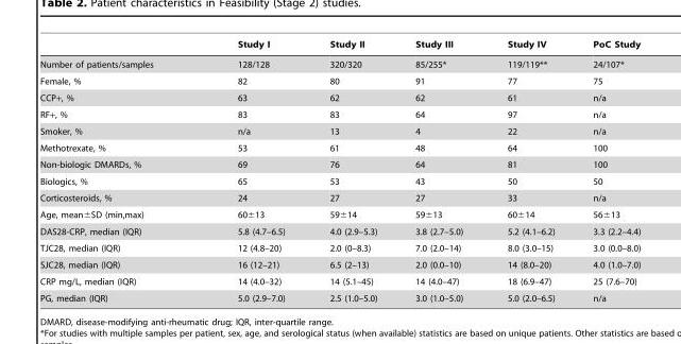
<table><thead><tr><td></td><td>Study I</td><td>Study II</td><td>Study III</td><td>Study IV</td><td>PoC Study</td></tr></thead><tbody><tr><td>Number of patients/samples</td><td>128/128</td><td>320/320</td><td>85/255*</td><td>119/119**</td><td>24/107*</td></tr><tr><td>Female, %</td><td>82</td><td>80</td><td>91</td><td>77</td><td>75</td></tr><tr><td>CCP+, %</td><td>63</td><td>62</td><td>62</td><td>61</td><td>n/a</td></tr><tr><td>RF+, %</td><td>83</td><td>83</td><td>64</td><td>97</td><td>n/a</td></tr><tr><td>Smoker, %</td><td>n/a</td><td>13</td><td>4</td><td>22</td><td>n/a</td></tr><tr><td>Methotrexate, %</td><td>53</td><td>61</td><td>48</td><td>64</td><td>100</td></tr><tr><td>Non-biologic DMARDs, %</td><td>69</td><td>76</td><td>64</td><td>81</td><td>100</td></tr><tr><td>Biologics, %</td><td>65</td><td>53</td><td>43</td><td>50</td><td>50</td></tr><tr><td>Corticosteroids, %</td><td>24</td><td>27</td><td>27</td><td>33</td><td>n/a</td></tr><tr><td>Age, mean±SD (min,max)</td><td>60±13</td><td>59±14</td><td>59±13</td><td>60±14</td><td>56±13</td></tr><tr><td>DAS28-CRP, median (IQR)</td><td>5.8 (4.7–6.5)</td><td>4.0 (2.9–5.3)</td><td>3.8 (2.7–5.0)</td><td>5.2 (4.1–6.2)</td><td>3.3 (2.2–4.4)</td></tr><tr><td>TJC28, median (IQR)</td><td>12 (4.8–20)</td><td>2.0 (0–8.3)</td><td>7.0 (2.0–14)</td><td>8.0 (3.0–15)</td><td>3.0 (0.0–8.0)</td></tr><tr><td>SJC28, median (IQR)</td><td>16 (12–21)</td><td>6.5 (2–13)</td><td>2.0 (0.0–10)</td><td>14 (8.0–20)</td><td>4.0 (1.0–7.0)</td></tr><tr><td>CRP mg/L, median (IQR)</td><td>14 (4.0–32)</td><td>14 (5.1–45)</td><td>14 (4.0–47)</td><td>18 (6.9–47)</td><td>25 (7.6–70)</td></tr><tr><td>PG, median (IQR)</td><td>5.0 (2.9–7.0)</td><td>2.5 (1.0–5.0)</td><td>3.0 (1.0–5.0)</td><td>5.0 (2.0–6.5)</td><td>n/a</td></tr></tbody></table>